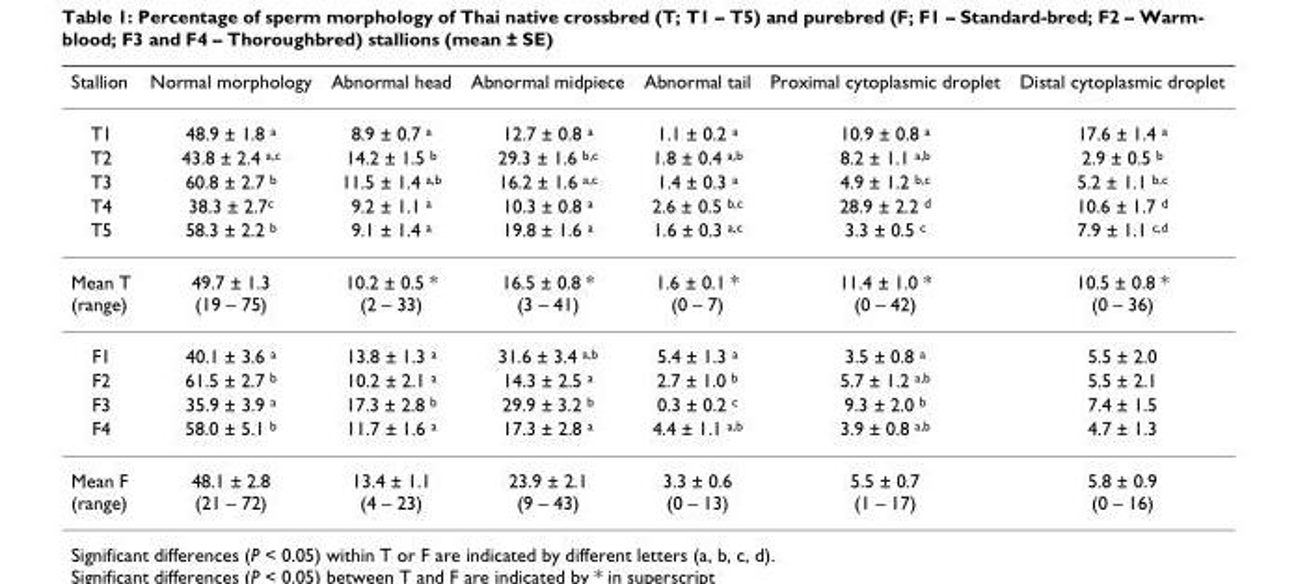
<table><thead><tr><td>Stallion</td><td>Normal morphology</td><td>Abnormal head</td><td>Abnormal midpiece</td><td>Abnormal tail</td><td>Proximal cytoplasmic droplet</td><td>Distal cytoplasmic droplet</td></tr></thead><tbody><tr><td>T1</td><td>48.9 ± 1.8 <sup>a</sup></td><td>8.9 ± 0.7 <sup>a</sup></td><td>12.7 ± 0.8 <sup>a</sup></td><td>1.1 ± 0.2 <sup>a</sup></td><td>10.9 ± 0.8 <sup>a</sup></td><td>17.6 ± 1.4 <sup>a</sup></td></tr><tr><td>T2</td><td>43.8 ± 2.4 <sup>a,c</sup></td><td>14.2 ± 1.5 <sup>b</sup></td><td>29.3 ± 1.6 <sup>b,c</sup></td><td>1.8 ± 0.4 <sup>a,b</sup></td><td>8.2 ± 1.1 <sup>a,b</sup></td><td>2.9 ± 0.5 <sup>b</sup></td></tr><tr><td>T3</td><td>60.8 ± 2.7 <sup>b</sup></td><td>11.5 ± 1.4 <sup>a,b</sup></td><td>16.2 ± 1.6 <sup>a,c</sup></td><td>1.4 ± 0.3 <sup>a</sup></td><td>4.9 ± 1.2 <sup>b,c</sup></td><td>5.2 ± 1.1 <sup>b,c</sup></td></tr><tr><td>T4</td><td>38.3 ± 2.7<sup>c</sup></td><td>9.2 ± 1.1 <sup>a</sup></td><td>10.3 ± 0.8 <sup>a</sup></td><td>2.6 ± 0.5 <sup>b,c</sup></td><td>28.9 ± 2.2 <sup>d</sup></td><td>10.6 ± 1.7 <sup>d</sup></td></tr><tr><td>T5</td><td>58.3 ± 2.2 <sup>b</sup></td><td>9.1 ± 1.4 <sup>a</sup></td><td>19.8 ± 1.6 <sup>a</sup></td><td>1.6 ± 0.3 <sup>a,c</sup></td><td>3.3 ± 0.5 <sup>c</sup></td><td>7.9 ± 1.1 <sup>c,d</sup></td></tr><tr><td>Mean T (range)</td><td>49.7 ± 1.3 (19 – 75)</td><td>10.2 ± 0.5 * (2 – 33)</td><td>16.5 ± 0.8 * (3 – 41)</td><td>1.6 ± 0.1 * (0 – 7)</td><td>11.4 ± 1.0 * (0 – 42)</td><td>10.5 ± 0.8 * (0 – 36)</td></tr><tr><td>F1</td><td>40.1 ± 3.6 <sup>a</sup></td><td>13.8 ± 1.3 <sup>a</sup></td><td>31.6 ± 3.4 <sup>a,b</sup></td><td>5.4 ± 1.3 <sup>a</sup></td><td>3.5 ± 0.8 <sup>a</sup></td><td>5.5 ± 2.0</td></tr><tr><td>F2</td><td>61.5 ± 2.7 <sup>b</sup></td><td>10.2 ± 2.1 <sup>a</sup></td><td>14.3 ± 2.5 <sup>a</sup></td><td>2.7 ± 1.0 <sup>b</sup></td><td>5.7 ± 1.2 <sup>a,b</sup></td><td>5.5 ± 2.1</td></tr><tr><td>F3</td><td>35.9 ± 3.9 <sup>a</sup></td><td>17.3 ± 2.8 <sup>b</sup></td><td>29.9 ± 3.2 <sup>b</sup></td><td>0.3 ± 0.2 <sup>c</sup></td><td>9.3 ± 2.0 <sup>b</sup></td><td>7.4 ± 1.5</td></tr><tr><td>F4</td><td>58.0 ± 5.1 <sup>b</sup></td><td>11.7 ± 1.6 <sup>a</sup></td><td>17.3 ± 2.8 <sup>a</sup></td><td>4.4 ± 1.1 <sup>a,b</sup></td><td>3.9 ± 0.8 <sup>a,b</sup></td><td>4.7 ± 1.3</td></tr><tr><td>Mean F (range)</td><td>48.1 ± 2.8 (21 – 72)</td><td>13.4 ± 1.1 (4 – 23)</td><td>23.9 ± 2.1 (9 – 43)</td><td>3.3 ± 0.6 (0 – 13)</td><td>5.5 ± 0.7 (1 – 17)</td><td>5.8 ± 0.9 (0 – 16)</td></tr></tbody></table>